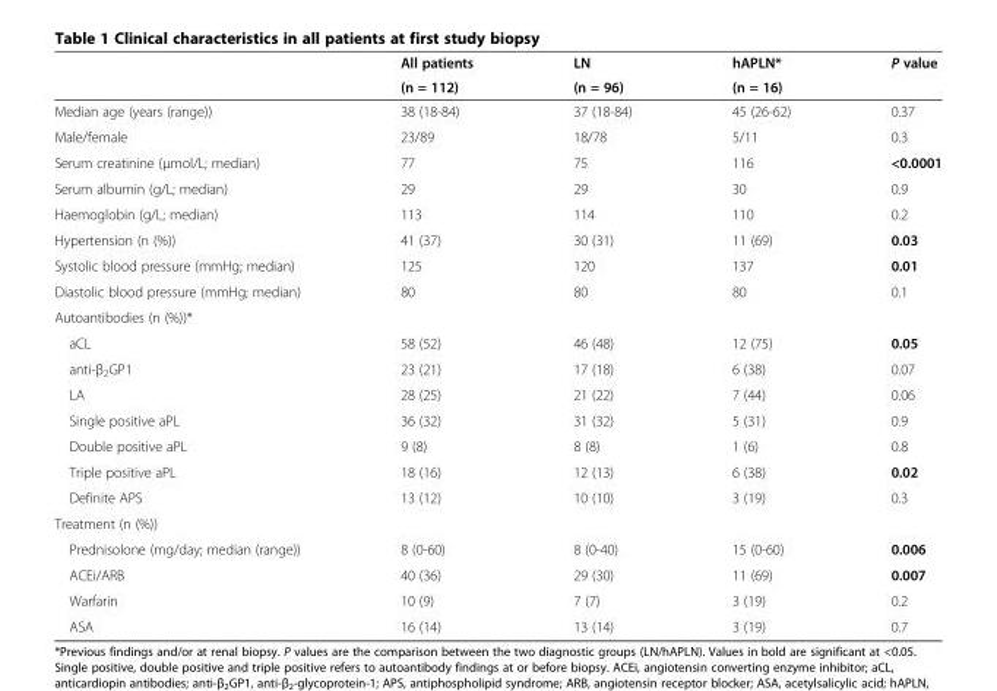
<table><thead><tr><td rowspan="2"></td><td rowspan="2">All patients (n = 112)</td><td rowspan="2">LN (n = 96)</td><td rowspan="2">hAPLN* (n = 16)</td><td rowspan="2">P value</td></tr><tr></tr></thead><tbody><tr><td>Median age (years (range))</td><td>38 (18-84)</td><td>37 (18-84)</td><td>45 (26-62)</td><td>0.37</td></tr><tr><td>Male/female</td><td>23/89</td><td>18/78</td><td>5/11</td><td>0.3</td></tr><tr><td>Serum creatinine (μmol/L; median)</td><td>77</td><td>75</td><td>116</td><td>&lt;0.0001</td></tr><tr><td>Serum albumin (g/L; median)</td><td>29</td><td>29</td><td>30</td><td>0.9</td></tr><tr><td>Haemoglobin (g/L; median)</td><td>113</td><td>114</td><td>110</td><td>0.2</td></tr><tr><td>Hypertension (n (%))</td><td>41 (37)</td><td>30 (31)</td><td>11 (69)</td><td>0.03</td></tr><tr><td>Systolic blood pressure (mmHg; median)</td><td>125</td><td>120</td><td>137</td><td>0.01</td></tr><tr><td>Diastolic blood pressure (mmHg; median)</td><td>80</td><td>80</td><td>80</td><td>0.1</td></tr><tr><td colspan="5">Autoantibodies (n (%))*</td></tr><tr><td>aCL</td><td>58 (52)</td><td>46 (48)</td><td>12 (75)</td><td>0.05</td></tr><tr><td>anti-β<sub>2</sub>GP1</td><td>23 (21)</td><td>17 (18)</td><td>6 (38)</td><td>0.07</td></tr><tr><td>LA</td><td>28 (25)</td><td>21 (22)</td><td>7 (44)</td><td>0.06</td></tr><tr><td>Single positive aPL</td><td>36 (32)</td><td>31 (32)</td><td>5 (31)</td><td>0.9</td></tr><tr><td>Double positive aPL</td><td>9 (8)</td><td>8 (8)</td><td>1 (6)</td><td>0.8</td></tr><tr><td>Triple positive aPL</td><td>18 (16)</td><td>12 (13)</td><td>6 (38)</td><td>0.02</td></tr><tr><td>Definite APS</td><td>13 (12)</td><td>10 (10)</td><td>3 (19)</td><td>0.3</td></tr><tr><td colspan="5">Treatment (n (%))</td></tr><tr><td>Prednisolone (mg/day; median (range))</td><td>8 (0-60)</td><td>8 (0-40)</td><td>15 (0-60)</td><td>0.006</td></tr><tr><td>ACEi/ARB</td><td>40 (36)</td><td>29 (30)</td><td>11 (69)</td><td>0.007</td></tr><tr><td>Warfarin</td><td>10 (9)</td><td>7 (7)</td><td>3 (19)</td><td>0.2</td></tr><tr><td>ASA</td><td>16 (14)</td><td>13 (14)</td><td>3 (19)</td><td>0.7</td></tr></tbody></table>